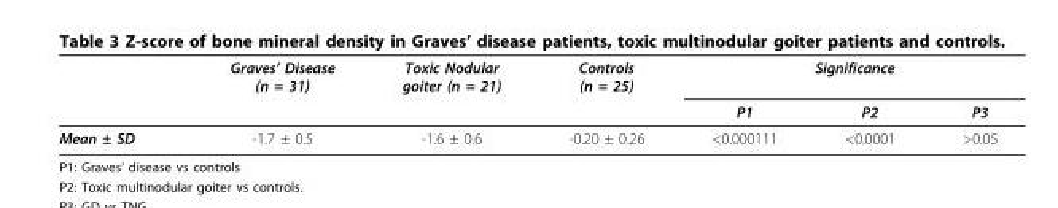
<table><thead><tr><td rowspan="2"></td><td rowspan="2">Graves’ Disease (n = 31)</td><td rowspan="2">Toxic Nodular goiter (n = 21)</td><td rowspan="2">Controls (n = 25)</td><td colspan="3">Significance</td></tr><tr><td>P1</td><td>P2</td><td>P3</td></tr></thead><tbody><tr><td>Mean ± SD</td><td>-1.7 ± 0.5</td><td>-1.6 ± 0.6</td><td>-0.20 ± 0.26</td><td>&lt;0.000111</td><td>&lt;0.0001</td><td>&gt;0.05</td></tr></tbody></table>